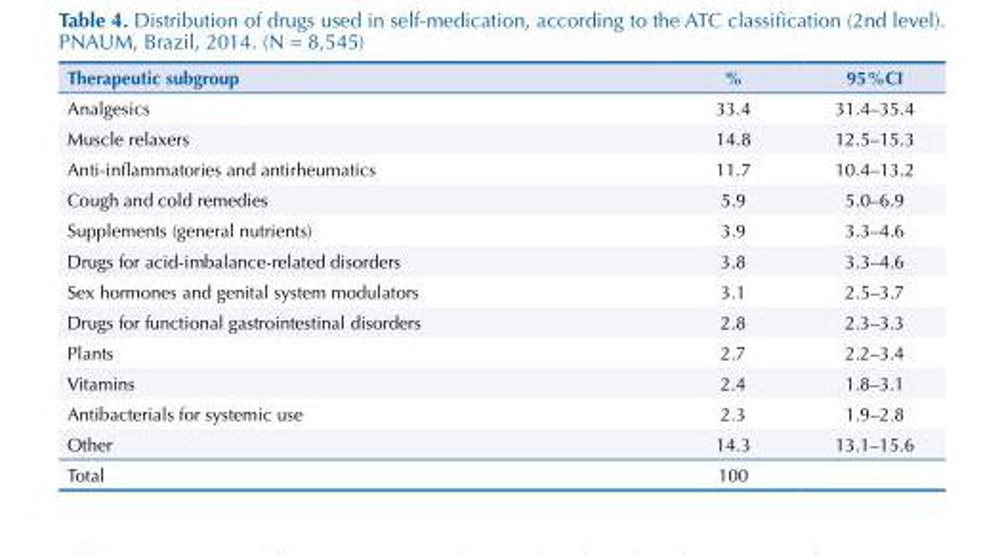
<table><thead><tr><td>Therapeutic subgroup</td><td>%</td><td>95%CI</td></tr></thead><tbody><tr><td>Analgesics</td><td>33.4</td><td>31.4–35.4</td></tr><tr><td>Muscle relaxers</td><td>14.8</td><td>12.5–15.3</td></tr><tr><td>Anti-inflammatories and antirheumatics</td><td>11.7</td><td>10.4–13.2</td></tr><tr><td>Cough and cold remedies</td><td>5.9</td><td>5.0–6.9</td></tr><tr><td>Supplements (general nutrients)</td><td>3.9</td><td>3.3–4.6</td></tr><tr><td>Drugs for acid-imbalance-related disorders</td><td>3.8</td><td>3.3–4.6</td></tr><tr><td>Sex hormones and genital system modulators</td><td>3.1</td><td>2.5–3.7</td></tr><tr><td>Drugs for functional gastrointestinal disorders</td><td>2.8</td><td>2.3–3.3</td></tr><tr><td>Plants</td><td>2.7</td><td>2.2–3.4</td></tr><tr><td>Vitamins</td><td>2.4</td><td>1.8–3.1</td></tr><tr><td>Antibacterials for systemic use</td><td>2.3</td><td>1.9–2.8</td></tr><tr><td>Other</td><td>14.3</td><td>13.1–15.6</td></tr><tr><td>Total</td><td>100</td><td></td></tr></tbody></table>